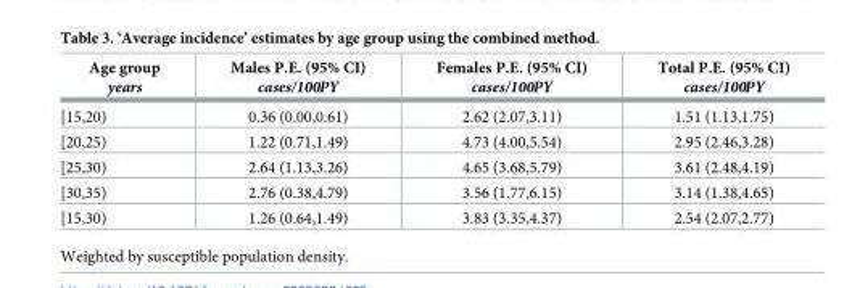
<table><thead><tr><td>Age group years</td><td>Males P.E. (95% CI) cases/100PY</td><td>Females P.E. (95% CI) cases/100PY</td><td>Total P.E. (95% CI) cases/100PY</td></tr></thead><tbody><tr><td>[15,20)</td><td>0.36 (0.00,0.61)</td><td>2.62 (2.07,3.11)</td><td>1.51 (1.13,1.75)</td></tr><tr><td>[20,25)</td><td>1.22 (0.71,1.49)</td><td>4.73 (4.00,5.54)</td><td>2.95 (2.46,3.28)</td></tr><tr><td>[25,30)</td><td>2.64 (1.13,3.26)</td><td>4.65 (3.68,5.79)</td><td>3.61 (2.48,4.19)</td></tr><tr><td>[30,35)</td><td>2.76 (0.38,4.79)</td><td>3.56 (1.77,6.15)</td><td>3.14 (1.38,4.65)</td></tr><tr><td>[15,30)</td><td>1.26 (0.64,1.49)</td><td>3.83 (3.35,4.37)</td><td>2.54 (2.07,2.77)</td></tr></tbody></table>